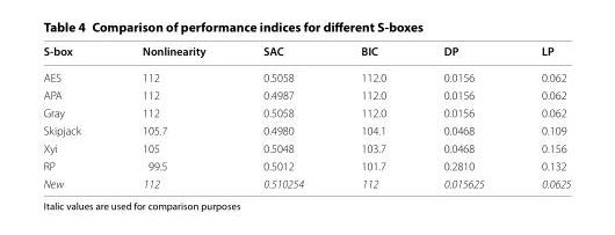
<table><thead><tr><td>S-box</td><td>Nonlinearity</td><td>SAC</td><td>BIC</td><td>DP</td><td>LP</td></tr></thead><tbody><tr><td>AES</td><td>112</td><td>0.5058</td><td>112.0</td><td>0.0156</td><td>0.062</td></tr><tr><td>APA</td><td>112</td><td>0.4987</td><td>112.0</td><td>0.0156</td><td>0.062</td></tr><tr><td>Gray</td><td>112</td><td>0.5058</td><td>112.0</td><td>0.0156</td><td>0.062</td></tr><tr><td>Skipjack</td><td>105.7</td><td>0.4980</td><td>104.1</td><td>0.0468</td><td>0.109</td></tr><tr><td>Xyi</td><td>105</td><td>0.5048</td><td>103.7</td><td>0.0468</td><td>0.156</td></tr><tr><td>RP</td><td>99.5</td><td>0.5012</td><td>101.7</td><td>0.2810</td><td>0.132</td></tr><tr><td>New</td><td>112</td><td>0.510254</td><td>112</td><td>0.015625</td><td>0.0625</td></tr></tbody></table>